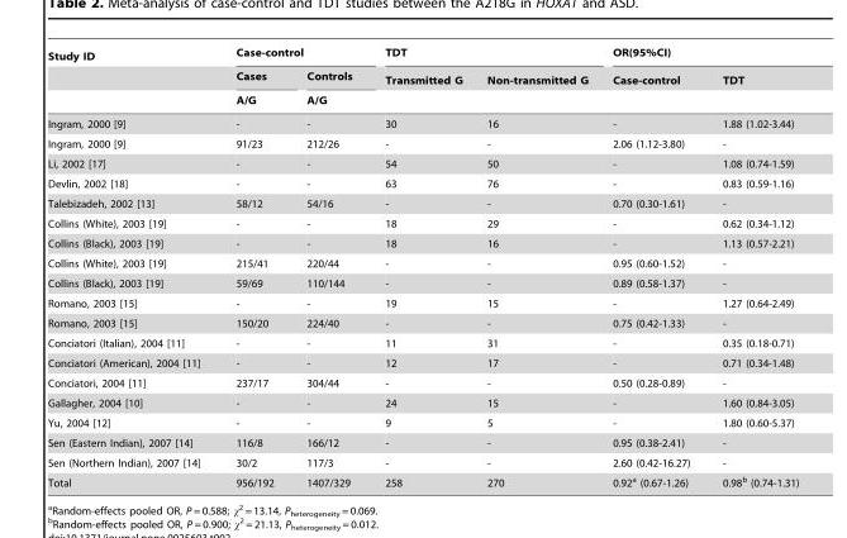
<table><thead><tr><td rowspan="3">Study ID</td><td colspan="2">Case-control</td><td colspan="2">TDT</td><td colspan="2">OR(95%CI)</td></tr><tr><td rowspan="2">Cases A/G</td><td rowspan="2">Controls A/G</td><td rowspan="2">Transmitted G</td><td rowspan="2">Non-transmitted G</td><td rowspan="2">Case-control</td><td rowspan="2">TDT</td></tr><tr></tr></thead><tbody><tr><td>Ingram, 2000 [9]</td><td>-</td><td>-</td><td>30</td><td>16</td><td>-</td><td>1.88 (1.02-3.44)</td></tr><tr><td>Ingram, 2000 [9]</td><td>91/23</td><td>212/26</td><td>-</td><td>-</td><td>2.06 (1.12-3.80)</td><td>-</td></tr><tr><td>Li, 2002 [17]</td><td>-</td><td>-</td><td>54</td><td>50</td><td>-</td><td>1.08 (0.74-1.59)</td></tr><tr><td>Devlin, 2002 [18]</td><td>-</td><td>-</td><td>63</td><td>76</td><td>-</td><td>0.83 (0.59-1.16)</td></tr><tr><td>Talebizadeh, 2002 [13]</td><td>58/12</td><td>54/16</td><td>-</td><td>-</td><td>0.70 (0.30-1.61)</td><td>-</td></tr><tr><td>Collins (White), 2003 [19]</td><td>-</td><td>-</td><td>18</td><td>29</td><td>-</td><td>0.62 (0.34-1.12)</td></tr><tr><td>Collins (Black), 2003 [19]</td><td>-</td><td>-</td><td>18</td><td>16</td><td>-</td><td>1.13 (0.57-2.21)</td></tr><tr><td>Collins (White), 2003 [19]</td><td>215/41</td><td>220/44</td><td>-</td><td>-</td><td>0.95 (0.60-1.52)</td><td>-</td></tr><tr><td>Collins (Black), 2003 [19]</td><td>59/69</td><td>110/144</td><td>-</td><td>-</td><td>0.89 (0.58-1.37)</td><td>-</td></tr><tr><td>Romano, 2003 [15]</td><td>-</td><td>-</td><td>19</td><td>15</td><td>-</td><td>1.27 (0.64-2.49)</td></tr><tr><td>Romano, 2003 [15]</td><td>150/20</td><td>224/40</td><td>-</td><td>-</td><td>0.75 (0.42-1.33)</td><td>-</td></tr><tr><td>Conciatori (Italian), 2004 [11]</td><td>-</td><td>-</td><td>11</td><td>31</td><td>-</td><td>0.35 (0.18-0.71)</td></tr><tr><td>Conciatori (American), 2004 [11]</td><td>-</td><td>-</td><td>12</td><td>17</td><td>-</td><td>0.71 (0.34-1.48)</td></tr><tr><td>Conciatori, 2004 [11]</td><td>237/17</td><td>304/44</td><td>-</td><td>-</td><td>0.50 (0.28-0.89)</td><td>-</td></tr><tr><td>Gallagher, 2004 [10]</td><td>-</td><td>-</td><td>24</td><td>15</td><td>-</td><td>1.60 (0.84-3.05)</td></tr><tr><td>Yu, 2004 [12]</td><td>-</td><td>-</td><td>9</td><td>5</td><td>-</td><td>1.80 (0.60-5.37)</td></tr><tr><td>Sen (Eastern Indian), 2007 [14]</td><td>116/8</td><td>166/12</td><td>-</td><td>-</td><td>0.95 (0.38-2.41)</td><td>-</td></tr><tr><td>Sen (Northern Indian), 2007 [14]</td><td>30/2</td><td>117/3</td><td>-</td><td>-</td><td>2.60 (0.42-16.27)</td><td>-</td></tr><tr><td>Total</td><td>956/192</td><td>1407/329</td><td>258</td><td>270</td><td>0.92<sup>a</sup> (0.67-1.26)</td><td>0.98<sup>b</sup> (0.74-1.31)</td></tr></tbody></table>